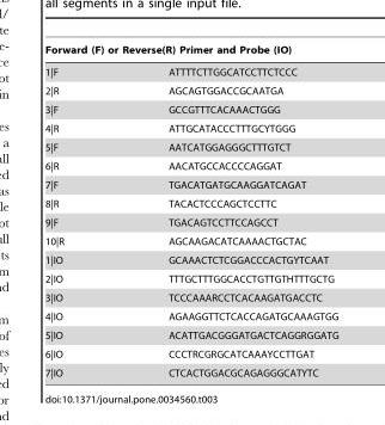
<table><thead><tr><td colspan="2">Forward (F) or Reverse(R) Primer and Probe (IO)</td></tr><tr><td>1|F</td><td>ATTTTCTTGGCATCCTTCTCCC</td></tr></thead><tbody><tr><td>2|R</td><td>AGCAGTGGACCGCAATGA</td></tr><tr><td>3|F</td><td>GCCGTTTCACAAACTGGG</td></tr><tr><td>4|R</td><td>ATTGCATACCCTTTGCYTGGG</td></tr><tr><td>5|F</td><td>AATCATGGAGGGCTTTGTCT</td></tr><tr><td>6|R</td><td>AACATGCCACCCCAGGAT</td></tr><tr><td>7|F</td><td>TGACATGATGCAAGGATCAGAT</td></tr><tr><td>8|R</td><td>TACACTCCCAGCTCCTTC</td></tr><tr><td>9|F</td><td>TGACAGTCCTTCCAGCCT</td></tr><tr><td>10|R</td><td>AGCAAGACATCAAAACTGCTAC</td></tr><tr><td>1|IO</td><td>GCAAACTCTCGGACCCACTGYTCAAT</td></tr><tr><td>2|IO</td><td>TTTGCTTTGGCACCTGTTGTHTTTGCTG</td></tr><tr><td>3|IO</td><td>TCCCAAARCCTCACAAGATGACCTC</td></tr><tr><td>4|IO</td><td>AGAAGGTTCTCACCAGATGCAAAGTGG</td></tr><tr><td>5|IO</td><td>ACATTGACGGGATGACTCAGGRGGATG</td></tr><tr><td>6|IO</td><td>CCCTRCGRGCATCAAAYCCTTGAT</td></tr><tr><td>7|IO</td><td>CTCACTGGACGCAGAGGGCATYTC</td></tr></tbody></table>